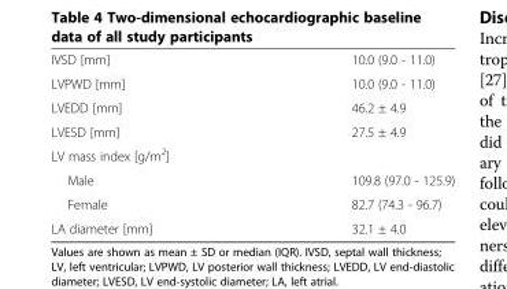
<table><tbody><tr><td>IVSD [mm]</td><td>10.0 (9.0 - 11.0)</td></tr><tr><td>LVPWD [mm]</td><td>10.0 (9.0 - 11.0)</td></tr><tr><td>LVEDD [mm]</td><td>46.2 ± 4.9</td></tr><tr><td>LVESD [mm]</td><td>27.5 ± 4.9</td></tr><tr><td colspan="2">LV mass index [g/m<sup>2</sup>]</td></tr><tr><td>Male</td><td>109.8 (97.0 - 125.9)</td></tr><tr><td>Female</td><td>82.7 (74.3 - 96.7)</td></tr><tr><td>LA diameter [mm]</td><td>32.1 ± 4.0</td></tr></tbody></table>